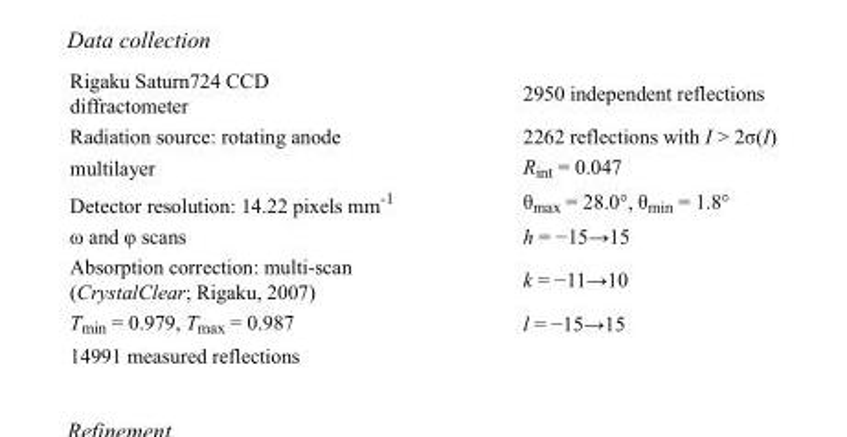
<table><tbody><tr><td>Rigaku Saturn724 CCD diffractometer</td><td>2950 independent reflections</td></tr><tr><td>Radiation source: rotating anode</td><td>2262 reflections with I &gt; 2σ(I)</td></tr><tr><td>multilayer</td><td>R<sub>int</sub> = 0.047</td></tr><tr><td>Detector resolution: 14.22 pixels mm<sup>-1</sup></td><td>θ<sub>max</sub> = 28.0°, θ<sub>min</sub> = 1.8°</td></tr><tr><td>ω and φ scans</td><td>h = −15→15</td></tr><tr><td>Absorption correction: multi-scan (CrystalClear; Rigaku, 2007)</td><td>k = −11→10</td></tr><tr><td>T<sub>min</sub> = 0.979, T<sub>max</sub> = 0.987</td><td>l = −15→15</td></tr><tr><td>14991 measured reflections</td><td></td></tr></tbody></table>